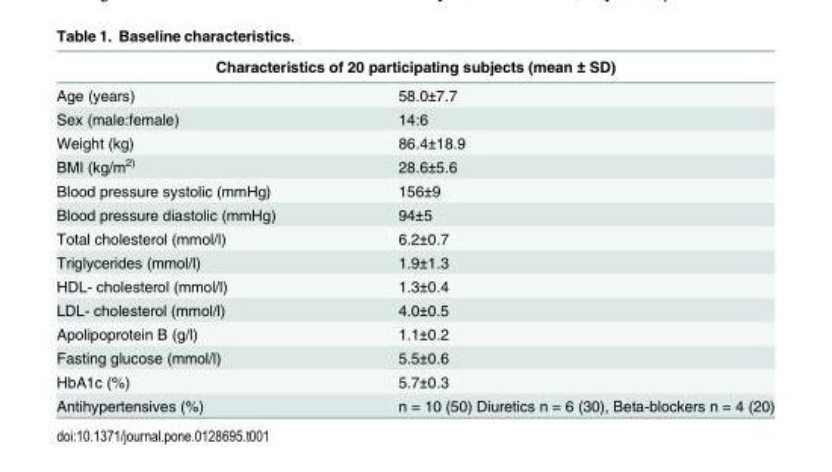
<table><thead><tr><td colspan="2">Characteristics of 20 participating subjects (mean ± SD)</td></tr><tr><td>Age (years)</td><td>58.0±7.7</td></tr></thead><tbody><tr><td>Sex (male:female)</td><td>14:6</td></tr><tr><td>Weight (kg)</td><td>86.4±18.9</td></tr><tr><td>BMI (kg/m<sup>2)</sup></td><td>28.6±5.6</td></tr><tr><td>Blood pressure systolic (mmHg)</td><td>156±9</td></tr><tr><td>Blood pressure diastolic (mmHg)</td><td>94±5</td></tr><tr><td>Total cholesterol (mmol/l)</td><td>6.2±0.7</td></tr><tr><td>Triglycerides (mmol/l)</td><td>1.9±1.3</td></tr><tr><td>HDL- cholesterol (mmol/l)</td><td>1.3±0.4</td></tr><tr><td>LDL- cholesterol (mmol/l)</td><td>4.0±0.5</td></tr><tr><td>Apolipoprotein B (g/l)</td><td>1.1±0.2</td></tr><tr><td>Fasting glucose (mmol/l)</td><td>5.5±0.6</td></tr><tr><td>HbA1c (%)</td><td>5.7±0.3</td></tr><tr><td>Antihypertensives (%)</td><td>n = 10 (50) Diuretics n = 6 (30), Beta-blockers n = 4 (20)</td></tr></tbody></table>